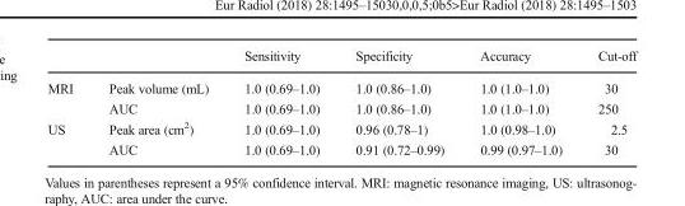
<table><thead><tr><td></td><td></td><td>Sensitivity</td><td>Specificity</td><td>Accuracy</td><td>Cut-off</td></tr></thead><tbody><tr><td rowspan="2">MRI</td><td>Peak volume (mL)</td><td>1.0 (0.69–1.0)</td><td>1.0 (0.86–1.0)</td><td>1.0 (1.0–1.0)</td><td>30</td></tr><tr><td>AUC</td><td>1.0 (0.69–1.0)</td><td>1.0 (0.86–1.0)</td><td>1.0 (1.0–1.0)</td><td>250</td></tr><tr><td rowspan="2">US</td><td>Peak area (cm<sup>2</sup>)</td><td>1.0 (0.69–1.0)</td><td>0.96 (0.78–1)</td><td>1.0 (0.98–1.0)</td><td>2.5</td></tr><tr><td>AUC</td><td>1.0 (0.69–1.0)</td><td>0.91 (0.72–0.99)</td><td>0.99 (0.97–1.0)</td><td>30</td></tr></tbody></table>